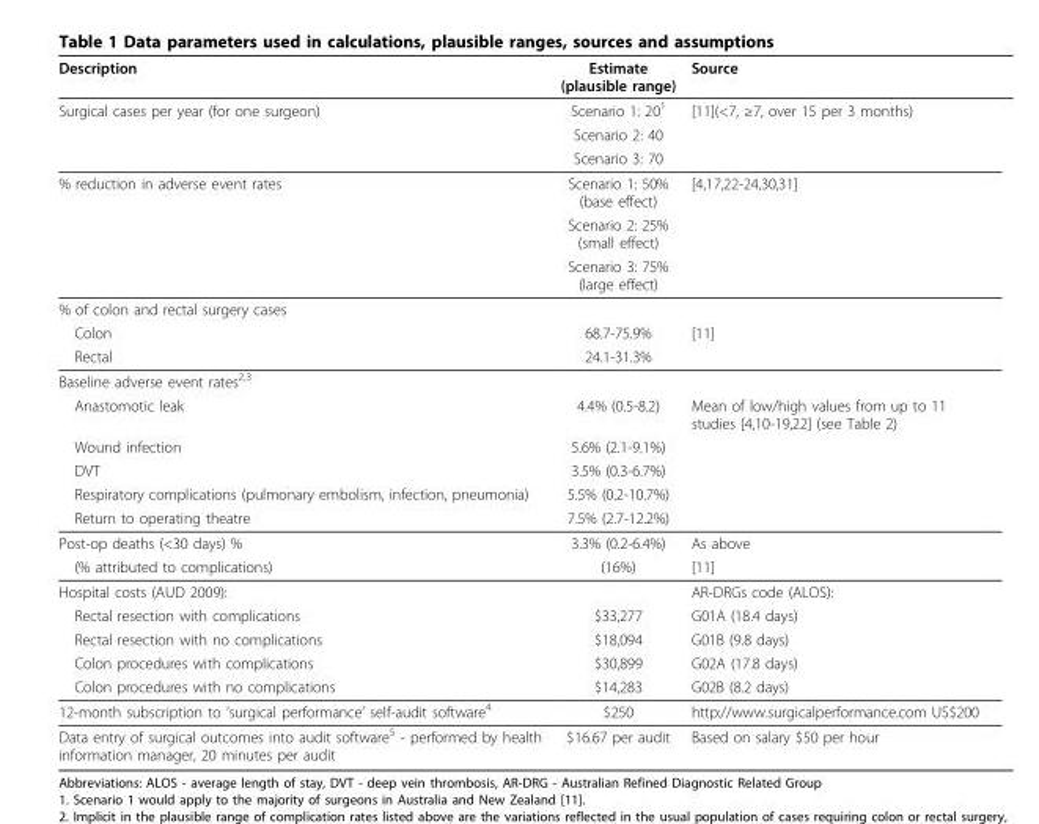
<table><thead><tr><td>Description</td><td>Estimate (plausible range)</td><td>Source</td></tr></thead><tbody><tr><td rowspan="3">Surgical cases per year (for one surgeon)</td><td>Scenario 1: 20<sup>1</sup></td><td>[11](&lt;7, ≥7, over 15 per 3 months)</td></tr><tr><td>Scenario 2: 40</td><td></td></tr><tr><td>Scenario 3: 70</td><td></td></tr><tr><td rowspan="3">% reduction in adverse event rates</td><td>Scenario 1: 50% (base effect)</td><td>[4,17,22-24,30,31]</td></tr><tr><td>Scenario 2: 25% (small effect)</td><td></td></tr><tr><td>Scenario 3: 75% (large effect)</td><td></td></tr><tr><td colspan="3">% of colon and rectal surgery cases</td></tr><tr><td>Colon</td><td>68.7-75.9%</td><td>[11]</td></tr><tr><td>Rectal</td><td>24.1-31.3%</td><td></td></tr><tr><td colspan="3">Baseline adverse event rates<sup>2,3</sup></td></tr><tr><td>Anastomotic leak</td><td>4.4% (0.5-8.2)</td><td>Mean of low/high values from up to 11 studies [4,10-19,22] (see Table 2)</td></tr><tr><td>Wound infection</td><td>5.6% (2.1-9.1%)</td><td></td></tr><tr><td>DVT</td><td>3.5% (0.3-6.7%)</td><td></td></tr><tr><td>Respiratory complications (pulmonary embolism, infection, pneumonia)</td><td>5.5% (0.2-10.7%)</td><td></td></tr><tr><td>Return to operating theatre</td><td>7.5% (2.7-12.2%)</td><td></td></tr><tr><td>Post-op deaths (&lt;30 days) %</td><td>3.3% (0.2-6.4%)</td><td>As above</td></tr><tr><td>(% attributed to complications)</td><td>(16%)</td><td>[11]</td></tr><tr><td>Hospital costs (AUD 2009):</td><td></td><td>AR-DRGs code (ALOS):</td></tr><tr><td>Rectal resection with complications</td><td>$33,277</td><td>G01A (18.4 days)</td></tr><tr><td>Rectal resection with no complications</td><td>$18,094</td><td>G01B (9.8 days)</td></tr><tr><td>Colon procedures with complications</td><td>$30,899</td><td>G02A (17.8 days)</td></tr><tr><td>Colon procedures with no complications</td><td>$14,283</td><td>G02B (8.2 days)</td></tr><tr><td>12-month subscription to ‘surgical performance’ self-audit software<sup>4</sup></td><td>$250</td><td>http://www.surgicalperformance.com US$200</td></tr><tr><td>Data entry of surgical outcomes into audit software<sup>5</sup> - performed by health information manager, 20 minutes per audit</td><td>$16.67 per audit</td><td>Based on salary $50 per hour</td></tr></tbody></table>